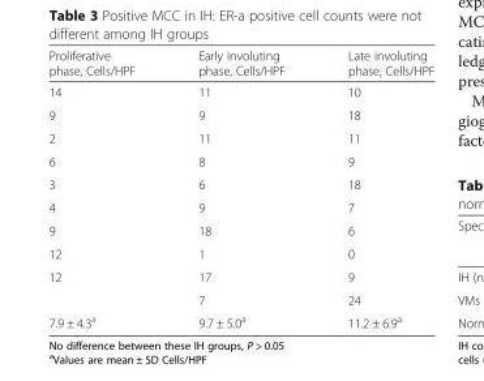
<table><thead><tr><td>Proliferative phase, Cells/HPF</td><td>Early involuting phase, Cells/HPF</td><td>Late involuting phase, Cells/HPF</td></tr></thead><tbody><tr><td>14</td><td>11</td><td>10</td></tr><tr><td>9</td><td>9</td><td>18</td></tr><tr><td>2</td><td>11</td><td>11</td></tr><tr><td>6</td><td>8</td><td>9</td></tr><tr><td>3</td><td>6</td><td>18</td></tr><tr><td>4</td><td>9</td><td>7</td></tr><tr><td>9</td><td>18</td><td>6</td></tr><tr><td>12</td><td>1</td><td>0</td></tr><tr><td rowspan="2">12</td><td>17</td><td>9</td></tr><tr><td>7</td><td>24</td></tr><tr><td>7.9 ± 4.3<sup>a</sup></td><td>9.7 ± 5.0<sup>a</sup></td><td>11.2 ± 6.9<sup>a</sup></td></tr></tbody></table>